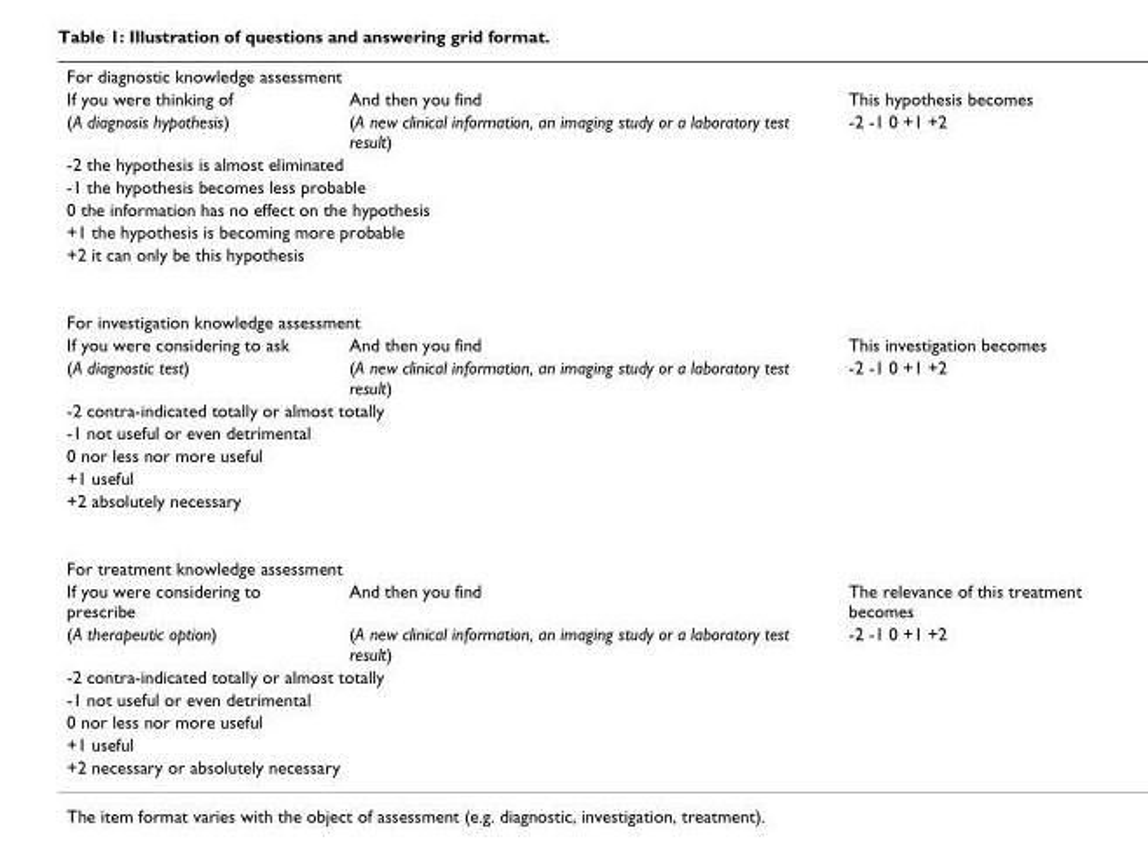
<table><tbody><tr><td colspan="3">For diagnostic knowledge assessment</td></tr><tr><td>If you were thinking of</td><td>And then you find</td><td>This hypothesis becomes</td></tr><tr><td>(A diagnosis hypothesis)</td><td>(A new clinical information, an imaging study or a laboratory test result)</td><td>-2 -1 0 +1 +2</td></tr><tr><td colspan="3">-2 the hypothesis is almost eliminated</td></tr><tr><td colspan="3">-1 the hypothesis becomes less probable</td></tr><tr><td colspan="3">0 the information has no effect on the hypothesis</td></tr><tr><td colspan="3">+1 the hypothesis is becoming more probable</td></tr><tr><td colspan="3">+2 it can only be this hypothesis</td></tr><tr><td colspan="3">For investigation knowledge assessment</td></tr><tr><td>If you were considering to ask</td><td>And then you find</td><td>This investigation becomes</td></tr><tr><td>(A diagnostic test)</td><td>(A new clinical information, an imaging study or a laboratory test result)</td><td>-2 -1 0 +1 +2</td></tr><tr><td colspan="3">-2 contra-indicated totally or almost totally</td></tr><tr><td colspan="3">-1 not useful or even detrimental</td></tr><tr><td colspan="3">0 nor less nor more useful</td></tr><tr><td colspan="3">+1 useful</td></tr><tr><td colspan="3">+2 absolutely necessary</td></tr><tr><td colspan="3">For treatment knowledge assessment</td></tr><tr><td>If you were considering to prescribe</td><td>And then you find</td><td>The relevance of this treatment becomes</td></tr><tr><td>(A therapeutic option)</td><td>(A new clinical information, an imaging study or a laboratory test result)</td><td>-2 -1 0 +1 +2</td></tr><tr><td colspan="3">-2 contra-indicated totally or almost totally</td></tr><tr><td colspan="3">-1 not useful or even detrimental</td></tr><tr><td colspan="3">0 nor less nor more useful</td></tr><tr><td colspan="3">+1 useful</td></tr><tr><td colspan="3">+2 necessary or absolutely necessary</td></tr></tbody></table>